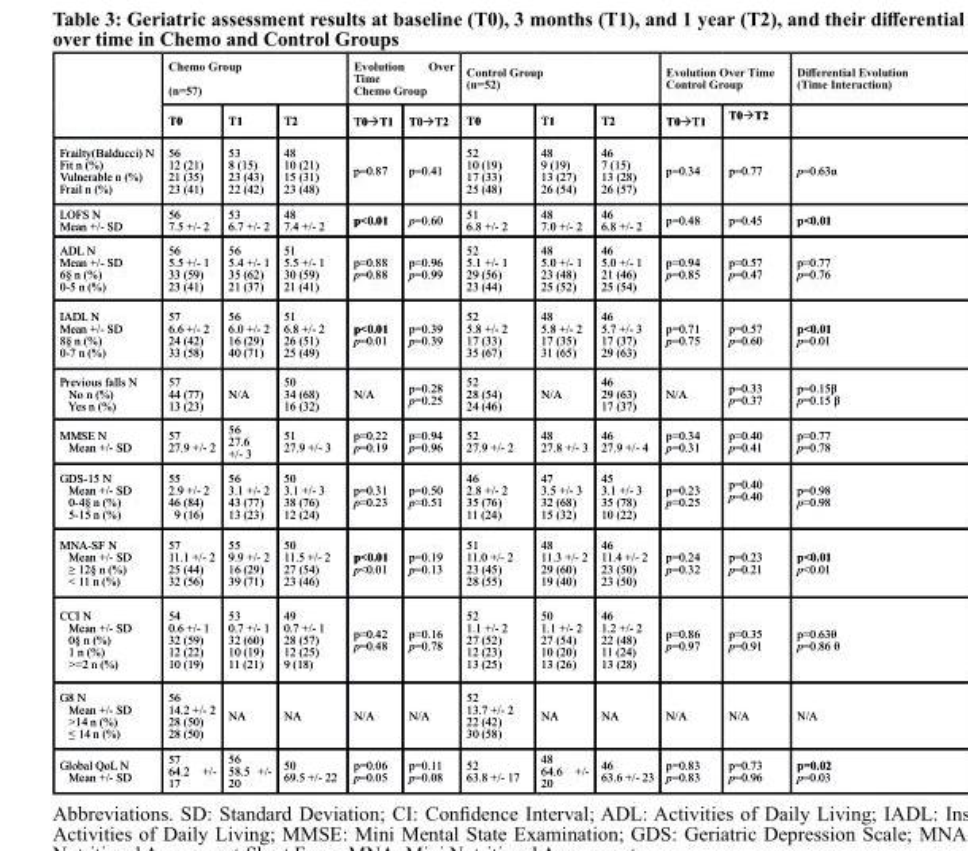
<table><thead><tr><td rowspan="2"></td><td colspan="3">chemo Group (n=57)</td><td colspan="2">Evolution Over time chemo Group</td><td colspan="3">control Group (n=52)</td><td colspan="2">Evolution Over Time control Group</td><td rowspan="2">Differential Evolution (time Interaction)</td></tr><tr><td>t0</td><td>t1</td><td>t2</td><td>t0→t1</td><td>t0→t2</td><td>t0</td><td>t1</td><td>t2</td><td>t0→t1</td><td>t0→t2</td></tr></thead><tbody><tr><td>Frailty(Balducci) N Fit n (%) Vulnerable n (%) Frail n (%)</td><td>56 12 (21) 21 (35) 23 (41)</td><td>53 8 (15) 23 (43) 22 (42)</td><td>48 10 (21) 15 (31) 23 (48)</td><td>p=0.87</td><td>p=0.41</td><td>52 10 (19) 17 (33) 25 (48)</td><td>48 9 (19) 13 (27) 26 (54)</td><td>46 7 (15) 13 (28) 26 (57)</td><td>p=0.34</td><td>p=0.77</td><td>p=0.63α</td></tr><tr><td>LOFS N Mean +/- SD</td><td>56 7.5 +/- 2</td><td>53 6.7 +/- 2</td><td>48 7.4 +/- 2</td><td>p&lt;0.01</td><td>p=0.60</td><td>51 6.8 +/- 2</td><td>48 7.0 +/- 2</td><td>46 6.8 +/- 2</td><td>p=0.48</td><td>p=0.45</td><td>p&lt;0.01</td></tr><tr><td>ADL N Mean +/- SD 6§ n (%) 0-5 n (%)</td><td>56 5.5 +/- 1 33 (59) 23 (41)</td><td>56 5.4 +/- 1 35 (62) 21 (37)</td><td>51 5.5 +/- 1 30 (59) 21 (41)</td><td>p=0.88 p=0.88</td><td>p=0.96 p=0.99</td><td>52 5.1 +/- 1 29 (56) 23 (44)</td><td>48 5.0 +/- 1 23 (48) 25 (52)</td><td>46 5.0 +/- 1 21 (46) 25 (54)</td><td>p=0.94 p=0.85</td><td>p=0.57 p=0.47</td><td>p=0.77 p=0.76</td></tr><tr><td>IADL N Mean +/- SD 8§ n (%) 0-7 n (%)</td><td>57 6.6 +/- 2 24 (42) 33 (58)</td><td>56 6.0 +/- 2 16 (29) 40 (71)</td><td>51 6.8 +/- 2 26 (51) 25 (49)</td><td>p&lt;0.01 p=0.01</td><td>p=0.39 p=0.39</td><td>52 5.8 +/- 2 17 (33) 35 (67)</td><td>48 5.8 +/- 2 17 (35) 31 (65)</td><td>46 5.7 +/- 3 17 (37) 29 (63)</td><td>p=0.71 p=0.75</td><td>p=0.57 p=0.60</td><td>p&lt;0.01 p=0.01</td></tr><tr><td>Previous falls N No n (%) Yes n (%)</td><td>57 44 (77) 13 (23)</td><td>N/A</td><td>50 34 (68) 16 (32)</td><td>N/A</td><td>p=0.28 p=0.25</td><td>52 28 (54) 24 (46)</td><td>N/A</td><td>46 29 (63) 17 (37)</td><td>N/A</td><td>p=0.33 p=0.37</td><td>p=0.15β p=0.15 β</td></tr><tr><td>MMSE N Mean +/- SD</td><td>57 27.9 +/- 2</td><td>56 27.6 +/- 3</td><td>51 27.9 +/- 3</td><td>p=0.22 p=0.19</td><td>p=0.94 p=0.96</td><td>52 27.9 +/- 2</td><td>48 27.8 +/- 3</td><td>46 27.9 +/- 4</td><td>p=0.34 p=0.31</td><td>p=0.40 p=0.41</td><td>p=0.77 p=0.78</td></tr><tr><td>GDS-15 N Mean +/- SD 0-4§ n (%) 5-15 n (%)</td><td>55 2.9 +/- 2 46 (84) 9 (16)</td><td>56 3.1 +/- 2 43 (77) 13 (23)</td><td>50 3.1 +/- 3 38 (76) 12 (24)</td><td>p=0.31 p=0.23</td><td>p=0.50 p=0.51</td><td>46 2.8 +/- 2 35 (76) 11 (24)</td><td>47 3.5 +/- 3 32 (68) 15 (32)</td><td>45 3.1 +/- 3 35 (78) 10 (22)</td><td>p=0.23 p=0.25</td><td>p=0.40 p=0.40</td><td>p=0.98 p=0.98</td></tr><tr><td>MNA-SF N Mean +/- SD ≥ 12§ n (%) &lt; 11 n (%)</td><td>57 11.1 +/- 2 25 (44) 32 (56)</td><td>55 9.9 +/- 2 16 (29) 39 (71)</td><td>50 11.5 +/- 2 27 (54) 23 (46)</td><td>p&lt;0.01 p&lt;0.01</td><td>p=0.19 p=0.13</td><td>51 11.0 +/- 2 23 (45) 28 (55)</td><td>48 11.3 +/- 2 29 (60) 19 (40)</td><td>46 11.4 +/- 2 23 (50) 23 (50)</td><td>p=0.24 p=0.32</td><td>p=0.23 p=0.21</td><td>p&lt;0.01 p&lt;0.01</td></tr><tr><td>CCI N Mean +/- SD 0§ n (%) 1 n (%) &gt;=2 n (%)</td><td>54 0.6 +/- 1 32 (59) 12 (22) 10 (19)</td><td>53 0.7 +/- 1 32 (60) 10 (19) 11 (21)</td><td>49 0.7 +/- 1 28 (57) 12 (25) 9 (18)</td><td>p=0.42 p=0.48</td><td>p=0.16 p=0.78</td><td>52 1.1 +/- 2 27 (52) 12 (23) 13 (25)</td><td>50 1.1 +/- 2 27 (54) 10 (20) 13 (26)</td><td>46 1.2 +/- 2 22 (48) 11 (24) 13 (28)</td><td>p=0.86 p=0.97</td><td>p=0.35 p=0.91</td><td>p=0.63θ p=0.86 θ</td></tr><tr><td>G8 N Mean +/- SD &gt;14 n (%) ≤ 14 n (%)</td><td>56 14.2 +/- 2 28 (50) 28 (50)</td><td>NA</td><td>NA</td><td>N/A</td><td>N/A</td><td>52 13.7 +/- 2 22 (42) 30 (58)</td><td>NA</td><td>NA</td><td>N/A</td><td>N/A</td><td>N/A</td></tr><tr><td>Global QoL N Mean +/- SD</td><td>57 64.2 +/- 17</td><td>56 58.5 +/- 20</td><td>50 69.5 +/- 22</td><td>p=0.06 p=0.05</td><td>p=0.11 p=0.08</td><td>52 63.8 +/- 17</td><td>48 64.6 +/- 20</td><td>46 63.6 +/- 23</td><td>p=0.83 p=0.83</td><td>p=0.73 p=0.96</td><td>p=0.02 p=0.03</td></tr></tbody></table>